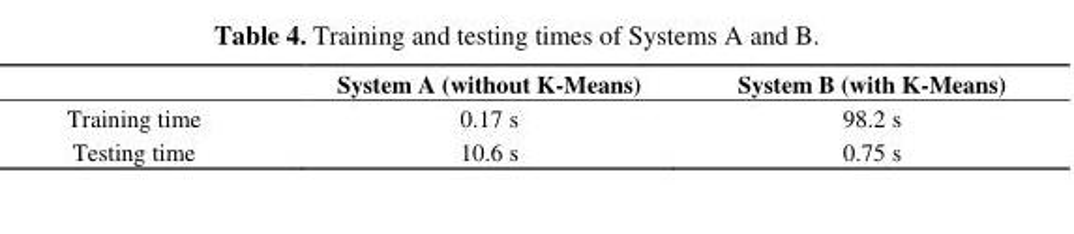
<table><thead><tr><td></td><td>System A (without K-Means)</td><td>System B (with K-Means)</td></tr></thead><tbody><tr><td>Training time</td><td>0.17 s</td><td>98.2 s</td></tr><tr><td>Testing time</td><td>10.6 s</td><td>0.75 s</td></tr></tbody></table>